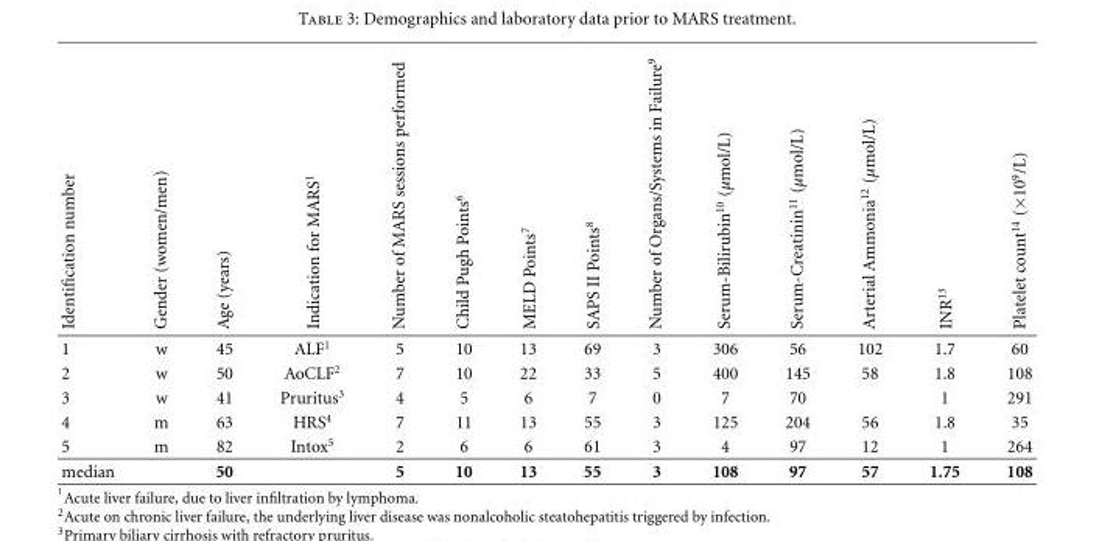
<table><thead><tr><td>Identification number</td><td>Gender (women/men)</td><td>Age (years)</td><td>Indication for MARS<sup>1</sup></td><td>Number of MARS sessions performed</td><td>Child Pugh Points<sup>6</sup></td><td>MELD Points<sup>7</sup></td><td>SAPS II Points<sup>8</sup></td><td>Number of Organs/Systems in Failure<sup>9</sup></td><td>Serum-Bilirubin<sup>10</sup> (µmol/L)</td><td>Serum-Creatinin<sup>11</sup> (µmol/L)</td><td>Arterial Ammonia<sup>12</sup> (µmol/L)</td><td>INR<sup>13</sup></td><td>Platelet count<sup>14</sup> (×10<sup>9</sup>/L)</td></tr></thead><tbody><tr><td>1</td><td>w</td><td>45</td><td>ALF<sup>1</sup></td><td>5</td><td>10</td><td>13</td><td>69</td><td>3</td><td>306</td><td>56</td><td>102</td><td>1.7</td><td>60</td></tr><tr><td>2</td><td>w</td><td>50</td><td>AoCLF<sup>2</sup></td><td>7</td><td>10</td><td>22</td><td>33</td><td>5</td><td>400</td><td>145</td><td>58</td><td>1.8</td><td>108</td></tr><tr><td>3</td><td>w</td><td>41</td><td>Pruritus<sup>3</sup></td><td>4</td><td>5</td><td>6</td><td>7</td><td>0</td><td>7</td><td>70</td><td></td><td>1</td><td>291</td></tr><tr><td>4</td><td>m</td><td>63</td><td>HRS<sup>4</sup></td><td>7</td><td>11</td><td>13</td><td>55</td><td>3</td><td>125</td><td>204</td><td>56</td><td>1.8</td><td>35</td></tr><tr><td>5</td><td>m</td><td>82</td><td>Intox<sup>5</sup></td><td>2</td><td>6</td><td>6</td><td>61</td><td>3</td><td>4</td><td>97</td><td>12</td><td>1</td><td>264</td></tr><tr><td>median</td><td></td><td>50</td><td></td><td>5</td><td>10</td><td>13</td><td>55</td><td>3</td><td>108</td><td>97</td><td>57</td><td>1.75</td><td>108</td></tr></tbody></table>